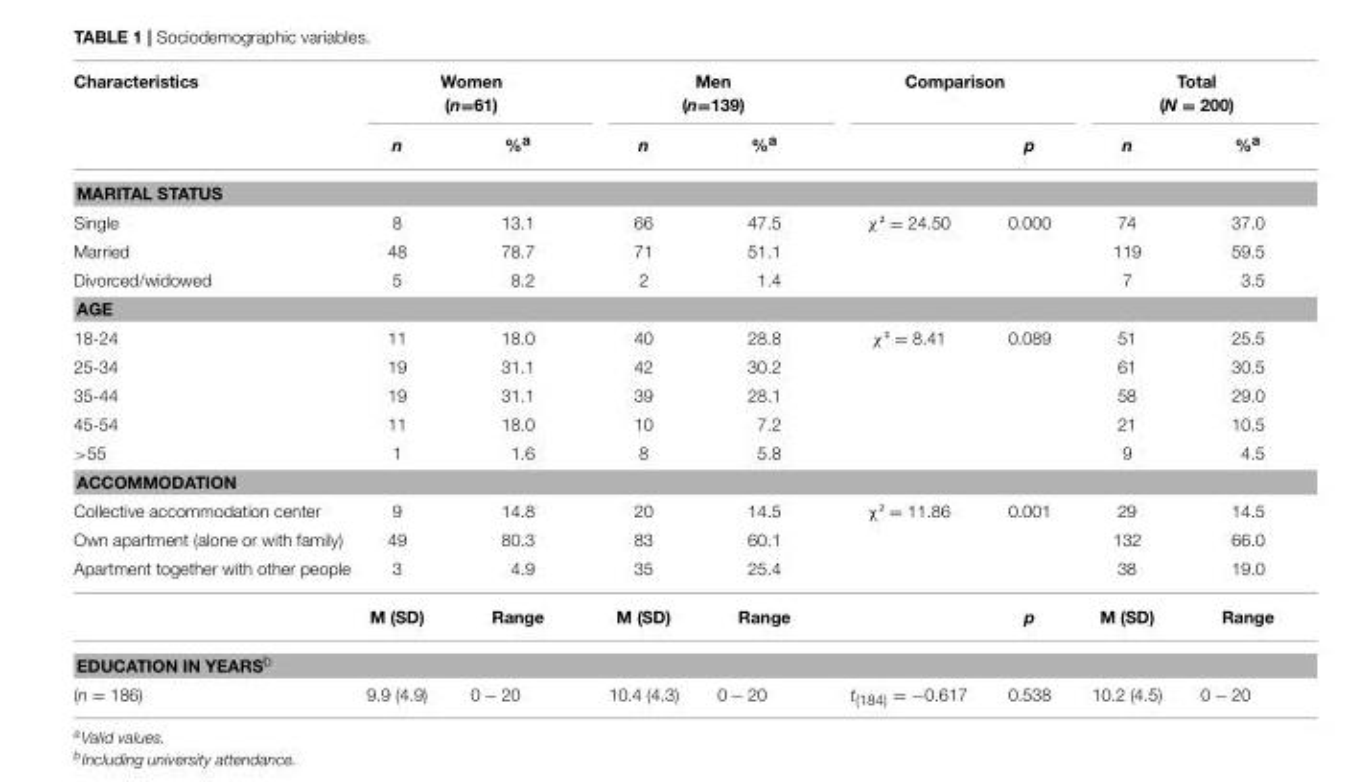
<table><thead><tr><td rowspan="2">Characteristics</td><td colspan="2">Women (n=61)</td><td colspan="2">Men (n=139)</td><td colspan="2">Comparison</td><td colspan="2">Total (N = 200)</td></tr><tr><td>n</td><td>%<sup>a</sup></td><td>n</td><td>%<sup>a</sup></td><td></td><td>p</td><td>n</td><td>%<sup>a</sup></td></tr></thead><tbody><tr><td colspan="9">MARITAL STATUS</td></tr><tr><td>Single</td><td>8</td><td>13.1</td><td>66</td><td>47.5</td><td>χ² = 24.50</td><td>0.000</td><td>74</td><td>37.0</td></tr><tr><td>Married</td><td>48</td><td>78.7</td><td>71</td><td>51.1</td><td></td><td></td><td>119</td><td>59.5</td></tr><tr><td>Divorced/widowed</td><td>5</td><td>8.2</td><td>2</td><td>1.4</td><td></td><td></td><td>7</td><td>3.5</td></tr><tr><td colspan="9">AGE</td></tr><tr><td>18-24</td><td>11</td><td>18.0</td><td>40</td><td>28.8</td><td>χ² = 8.41</td><td>0.089</td><td>51</td><td>25.5</td></tr><tr><td>25-34</td><td>19</td><td>31.1</td><td>42</td><td>30.2</td><td></td><td></td><td>61</td><td>30.5</td></tr><tr><td>35-44</td><td>19</td><td>31.1</td><td>39</td><td>28.1</td><td></td><td></td><td>58</td><td>29.0</td></tr><tr><td>45-54</td><td>11</td><td>18.0</td><td>10</td><td>7.2</td><td></td><td></td><td>21</td><td>10.5</td></tr><tr><td>&gt;55</td><td>1</td><td>1.6</td><td>8</td><td>5.8</td><td></td><td></td><td>9</td><td>4.5</td></tr><tr><td colspan="9">ACCOMMODATION</td></tr><tr><td>Collective accommodation center</td><td>9</td><td>14.8</td><td>20</td><td>14.5</td><td>χ² = 11.86</td><td>0.001</td><td>29</td><td>14.5</td></tr><tr><td>Own apartment (alone or with family)</td><td>49</td><td>80.3</td><td>83</td><td>60.1</td><td></td><td></td><td>132</td><td>66.0</td></tr><tr><td rowspan="2">Apartment together with other people</td><td>3</td><td>4.9</td><td>35</td><td>25.4</td><td></td><td></td><td>38</td><td>19.0</td></tr><tr><td>M (SD)</td><td>Range</td><td>M (SD)</td><td>Range</td><td></td><td>p</td><td>M (SD)</td><td>Range</td></tr><tr><td colspan="9">EDUCATION IN YEARS<sup>b</sup></td></tr><tr><td>(n = 186)</td><td>9.9 (4.9)</td><td>0 − 20</td><td>10.4 (4.3)</td><td>0 − 20</td><td>t<sub>(184)</sub> = −0.617</td><td>0.538</td><td>10.2 (4.5)</td><td>0 − 20</td></tr></tbody></table>